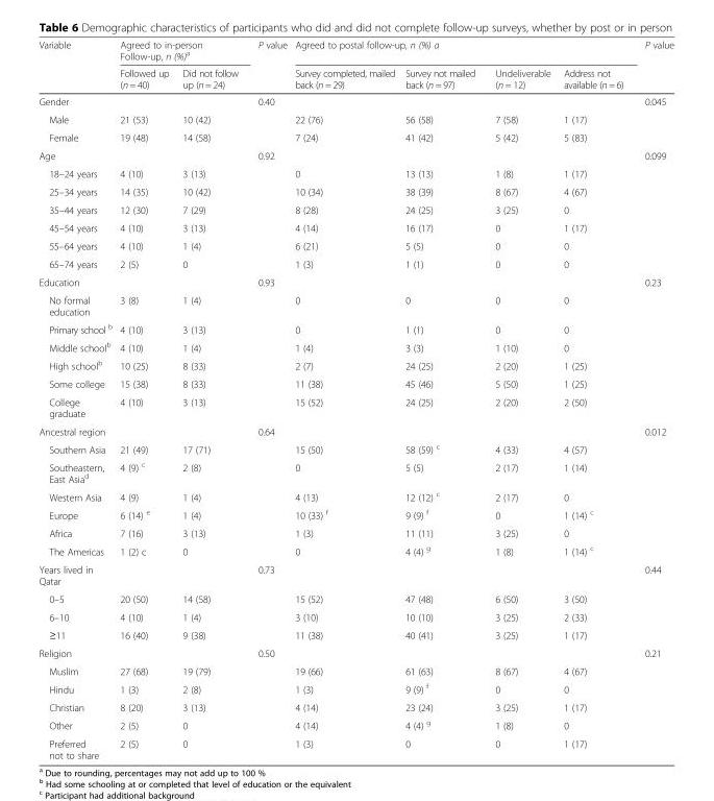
<table><thead><tr><td rowspan="2">Variable</td><td colspan="2">Agreed to in-person Follow-up, n (%)<sup>a</sup></td><td rowspan="2">P value</td><td colspan="4">Agreed to postal follow-up, n (%) a</td><td rowspan="2">P value</td></tr><tr><td>Followed up (n = 40)</td><td>Did not follow up (n = 24)</td><td>Survey completed, mailed back (n = 29)</td><td>Survey not mailed back (n = 97)</td><td>Undeliverable (n = 12)</td><td>Address not available (n = 6)</td></tr></thead><tbody><tr><td>Gender</td><td></td><td></td><td>0.40</td><td></td><td></td><td></td><td></td><td>0.045</td></tr><tr><td>Male</td><td>21 (53)</td><td>10 (42)</td><td></td><td>22 (76)</td><td>56 (58)</td><td>7 (58)</td><td>1 (17)</td><td></td></tr><tr><td>Female</td><td>19 (48)</td><td>14 (58)</td><td></td><td>7 (24)</td><td>41 (42)</td><td>5 (42)</td><td>5 (83)</td><td></td></tr><tr><td>Age</td><td></td><td></td><td>0.92</td><td></td><td></td><td></td><td></td><td>0.099</td></tr><tr><td>18–24 years</td><td>4 (10)</td><td>3 (13)</td><td></td><td>0</td><td>13 (13)</td><td>1 (8)</td><td>1 (17)</td><td></td></tr><tr><td>25–34 years</td><td>14 (35)</td><td>10 (42)</td><td></td><td>10 (34)</td><td>38 (39)</td><td>8 (67)</td><td>4 (67)</td><td></td></tr><tr><td>35–44 years</td><td>12 (30)</td><td>7 (29)</td><td></td><td>8 (28)</td><td>24 (25)</td><td>3 (25)</td><td>0</td><td></td></tr><tr><td>45–54 years</td><td>4 (10)</td><td>3 (13)</td><td></td><td>4 (14)</td><td>16 (17)</td><td>0</td><td>1 (17)</td><td></td></tr><tr><td>55–64 years</td><td>4 (10)</td><td>1 (4)</td><td></td><td>6 (21)</td><td>5 (5)</td><td>0</td><td>0</td><td></td></tr><tr><td>65–74 years</td><td>2 (5)</td><td>0</td><td></td><td>1 (3)</td><td>1 (1)</td><td>0</td><td>0</td><td></td></tr><tr><td>Education</td><td></td><td></td><td>0.93</td><td></td><td></td><td></td><td></td><td>0.23</td></tr><tr><td>No formal education</td><td>3 (8)</td><td>1 (4)</td><td></td><td>0</td><td>0</td><td>0</td><td>0</td><td></td></tr><tr><td>Primary school <sup>b</sup></td><td>4 (10)</td><td>3 (13)</td><td></td><td>0</td><td>1 (1)</td><td>0</td><td>0</td><td></td></tr><tr><td>Middle school<sup>b</sup></td><td>4 (10)</td><td>1 (4)</td><td></td><td>1 (4)</td><td>3 (3)</td><td>1 (10)</td><td>0</td><td></td></tr><tr><td>High school<sup>b</sup></td><td>10 (25)</td><td>8 (33)</td><td></td><td>2 (7)</td><td>24 (25)</td><td>2 (20)</td><td>1 (25)</td><td></td></tr><tr><td>Some college</td><td>15 (38)</td><td>8 (33)</td><td></td><td>11 (38)</td><td>45 (46)</td><td>5 (50)</td><td>1 (25)</td><td></td></tr><tr><td>College graduate</td><td>4 (10)</td><td>3 (13)</td><td></td><td>15 (52)</td><td>24 (25)</td><td>2 (20)</td><td>2 (50)</td><td></td></tr><tr><td>Ancestral region</td><td></td><td></td><td>0.64</td><td></td><td></td><td></td><td></td><td>0.012</td></tr><tr><td>Southern Asia</td><td>21 (49)</td><td>17 (71)</td><td></td><td>15 (50)</td><td>58 (59) <sup>c</sup></td><td>4 (33)</td><td>4 (57)</td><td></td></tr><tr><td>Southeastern, East Asia<sup>d</sup></td><td>4 (9) <sup>c</sup></td><td>2 (8)</td><td></td><td>0</td><td>5 (5)</td><td>2 (17)</td><td>1 (14)</td><td></td></tr><tr><td>Western Asia</td><td>4 (9)</td><td>1 (4)</td><td></td><td>4 (13)</td><td>12 (12) <sup>c</sup></td><td>2 (17)</td><td>0</td><td></td></tr><tr><td>Europe</td><td>6 (14) <sup>e</sup></td><td>1 (4)</td><td></td><td>10 (33) <sup>f</sup></td><td>9 (9) <sup>f</sup></td><td>0</td><td>1 (14) <sup>c</sup></td><td></td></tr><tr><td>Africa</td><td>7 (16)</td><td>3 (13)</td><td></td><td>1 (3)</td><td>11 (11)</td><td>3 (25)</td><td>0</td><td></td></tr><tr><td>The Americas</td><td>1 (2) c</td><td>0</td><td></td><td>0</td><td>4 (4) <sup>g</sup></td><td>1 (8)</td><td>1 (14) <sup>c</sup></td><td></td></tr><tr><td>Years lived in Qatar</td><td></td><td></td><td>0.73</td><td></td><td></td><td></td><td></td><td>0.44</td></tr><tr><td>0–5</td><td>20 (50)</td><td>14 (58)</td><td></td><td>15 (52)</td><td>47 (48)</td><td>6 (50)</td><td>3 (50)</td><td></td></tr><tr><td>6–10</td><td>4 (10)</td><td>1 (4)</td><td></td><td>3 (10)</td><td>10 (10)</td><td>3 (25)</td><td>2 (33)</td><td></td></tr><tr><td>≥11</td><td>16 (40)</td><td>9 (38)</td><td></td><td>11 (38)</td><td>40 (41)</td><td>3 (25)</td><td>1 (17)</td><td></td></tr><tr><td>Religion</td><td></td><td></td><td>0.50</td><td></td><td></td><td></td><td></td><td>0.21</td></tr><tr><td>Muslim</td><td>27 (68)</td><td>19 (79)</td><td></td><td>19 (66)</td><td>61 (63)</td><td>8 (67)</td><td>4 (67)</td><td></td></tr><tr><td>Hindu</td><td>1 (3)</td><td>2 (8)</td><td></td><td>1 (3)</td><td>9 (9) <sup>f</sup></td><td>0</td><td>0</td><td></td></tr><tr><td>Christian</td><td>8 (20)</td><td>3 (13)</td><td></td><td>4 (14)</td><td>23 (24)</td><td>3 (25)</td><td>1 (17)</td><td></td></tr><tr><td>Other</td><td>2 (5)</td><td>0</td><td></td><td>4 (14)</td><td>4 (4) <sup>g</sup></td><td>1 (8)</td><td>0</td><td></td></tr><tr><td>Preferred not to share</td><td>2 (5)</td><td>0</td><td></td><td>1 (3)</td><td>0</td><td>0</td><td>1 (17)</td><td></td></tr></tbody></table>